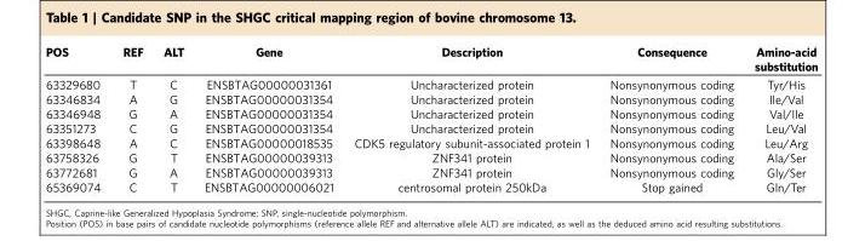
<table><thead><tr><td>POS</td><td>REF</td><td>ALT</td><td>Gene</td><td>Description</td><td>Consequence</td><td>Amino-acid substitution</td></tr></thead><tbody><tr><td>63329680</td><td>T</td><td>C</td><td>ENSBTAG00000031361</td><td>Uncharacterized protein</td><td>Nonsynonymous coding</td><td>Tyr/His</td></tr><tr><td>63346834</td><td>A</td><td>G</td><td>ENSBTAG00000031354</td><td>Uncharacterized protein</td><td>Nonsynonymous coding</td><td>Ile/Val</td></tr><tr><td>63346948</td><td>G</td><td>A</td><td>ENSBTAG00000031354</td><td>Uncharacterized protein</td><td>Nonsynonymous coding</td><td>Val/Ile</td></tr><tr><td>63351273</td><td>C</td><td>G</td><td>ENSBTAG00000031354</td><td>Uncharacterized protein</td><td>Nonsynonymous coding</td><td>Leu/Val</td></tr><tr><td>63398648</td><td>A</td><td>C</td><td>ENSBTAG00000018535</td><td>CDK5 regulatory subunit-associated protein 1</td><td>Nonsynonymous coding</td><td>Leu/Arg</td></tr><tr><td>63758326</td><td>G</td><td>T</td><td>ENSBTAG00000039313</td><td>ZNF341 protein</td><td>Nonsynonymous coding</td><td>Ala/Ser</td></tr><tr><td>63772681</td><td>G</td><td>A</td><td>ENSBTAG00000039313</td><td>ZNF341 protein</td><td>Nonsynonymous coding</td><td>Gly/Ser</td></tr><tr><td>65369074</td><td>C</td><td>T</td><td>ENSBTAG00000006021</td><td>centrosomal protein 250kDa</td><td>Stop gained</td><td>Gln/Ter</td></tr></tbody></table>